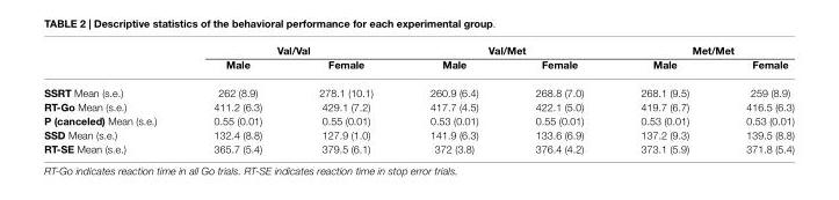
<table><thead><tr><td rowspan="2"></td><td colspan="2">Val/Val</td><td colspan="2">Val/Met</td><td colspan="2">Met/Met</td></tr><tr><td>Male</td><td>Female</td><td>Male</td><td>Female</td><td>Male</td><td>Female</td></tr></thead><tbody><tr><td>SSRT Mean (s.e.)</td><td>262 (8.9)</td><td>278.1 (10.1)</td><td>260.9 (6.4)</td><td>268.8 (7.0)</td><td>268.1 (9.5)</td><td>259 (8.9)</td></tr><tr><td>RT-Go Mean (s.e.)</td><td>411.2 (6.3)</td><td>429.1 (7.2)</td><td>417.7 (4.5)</td><td>422.1 (5.0)</td><td>419.7 (6.7)</td><td>416.5 (6.3)</td></tr><tr><td>P (canceled) Mean (s.e.)</td><td>0.55 (0.01)</td><td>0.55 (0.01)</td><td>0.53 (0.01)</td><td>0.55 (0.01)</td><td>0.53 (0.01)</td><td>0.53 (0.01)</td></tr><tr><td>SSD Mean (s.e.)</td><td>132.4 (8.8)</td><td>127.9 (1.0)</td><td>141.9 (6.3)</td><td>133.6 (6.9)</td><td>137.2 (9.3)</td><td>139.5 (8.8)</td></tr><tr><td>RT-SE Mean (s.e.)</td><td>365.7 (5.4)</td><td>379.5 (6.1)</td><td>372 (3.8)</td><td>376.4 (4.2)</td><td>373.1 (5.9)</td><td>371.8 (5.4)</td></tr></tbody></table>